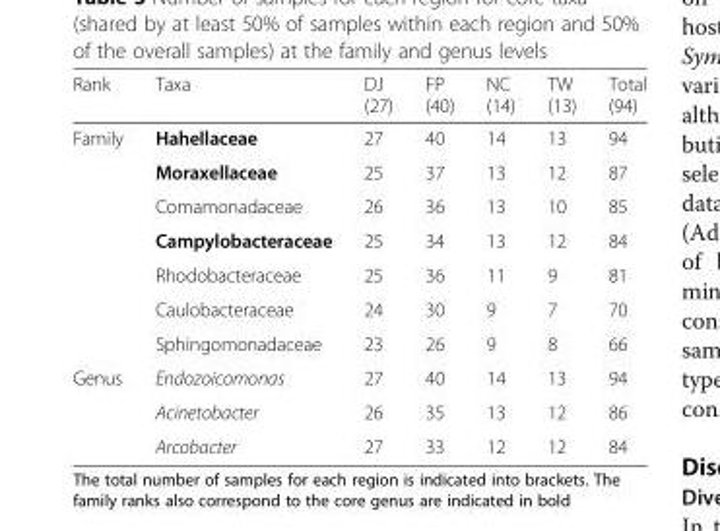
<table><thead><tr><td>Rank</td><td>Taxa</td><td>DJ (27)</td><td>FP (40)</td><td>NC (14)</td><td>TW (13)</td><td>Total (94)</td></tr></thead><tbody><tr><td rowspan="7">Family</td><td>Hahellaceae</td><td>27</td><td>40</td><td>14</td><td>13</td><td>94</td></tr><tr><td>Moraxellaceae</td><td>25</td><td>37</td><td>13</td><td>12</td><td>87</td></tr><tr><td>Comamonadaceae</td><td>26</td><td>36</td><td>13</td><td>10</td><td>85</td></tr><tr><td>Campylobacteraceae</td><td>25</td><td>34</td><td>13</td><td>12</td><td>84</td></tr><tr><td>Rhodobacteraceae</td><td>25</td><td>36</td><td>11</td><td>9</td><td>81</td></tr><tr><td>Caulobacteraceae</td><td>24</td><td>30</td><td>9</td><td>7</td><td>70</td></tr><tr><td>Sphingomonadaceae</td><td>23</td><td>26</td><td>9</td><td>8</td><td>66</td></tr><tr><td rowspan="3">Genus</td><td>Endozoicomonas</td><td>27</td><td>40</td><td>14</td><td>13</td><td>94</td></tr><tr><td>Acinetobacter</td><td>26</td><td>35</td><td>13</td><td>12</td><td>86</td></tr><tr><td>Arcobacter</td><td>27</td><td>33</td><td>12</td><td>12</td><td>84</td></tr></tbody></table>